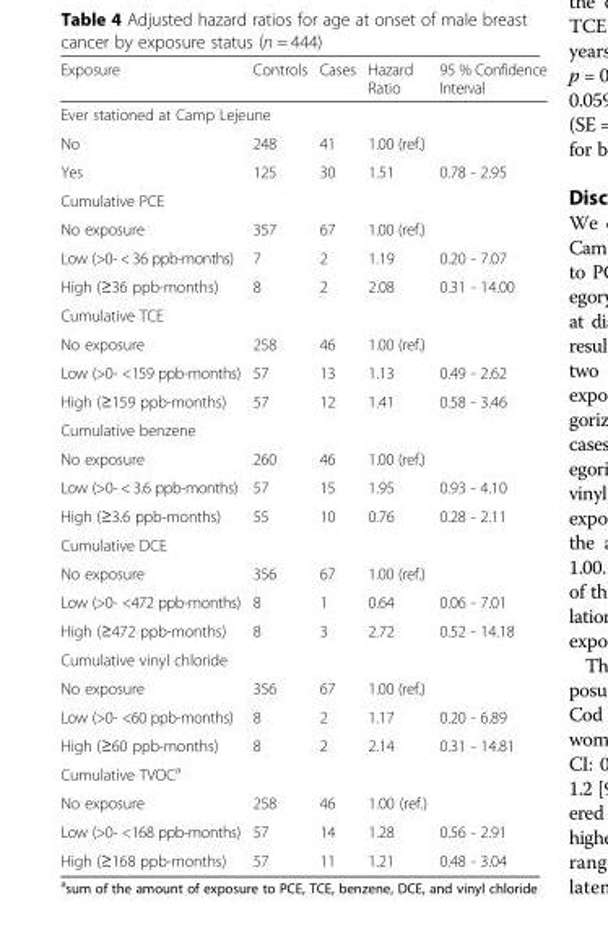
<table><thead><tr><td>Exposure</td><td>Controls</td><td>Cases</td><td>Hazard Ratio</td><td>95 % Confidence Interval</td></tr></thead><tbody><tr><td colspan="5">Ever stationed at Camp Lejeune</td></tr><tr><td>No</td><td>248</td><td>41</td><td>1.00 (ref.)</td><td></td></tr><tr><td>Yes</td><td>125</td><td>30</td><td>1.51</td><td>0.78 - 2.95</td></tr><tr><td colspan="5">Cumulative PCE</td></tr><tr><td>No exposure</td><td>357</td><td>67</td><td>1.00 (ref.)</td><td></td></tr><tr><td>Low (&gt;0- &lt; 36 ppb-months)</td><td>7</td><td>2</td><td>1.19</td><td>0.20 - 7.07</td></tr><tr><td>High (≥36 ppb-months)</td><td>8</td><td>2</td><td>2.08</td><td>0.31 - 14.00</td></tr><tr><td colspan="5">Cumulative TCE</td></tr><tr><td>No exposure</td><td>258</td><td>46</td><td>1.00 (ref.)</td><td></td></tr><tr><td>Low (&gt;0- &lt;159 ppb-months)</td><td>57</td><td>13</td><td>1.13</td><td>0.49 - 2.62</td></tr><tr><td>High (≥159 ppb-months)</td><td>57</td><td>12</td><td>1.41</td><td>0.58 - 3.46</td></tr><tr><td colspan="5">Cumulative benzene</td></tr><tr><td>No exposure</td><td>260</td><td>46</td><td>1.00 (ref.)</td><td></td></tr><tr><td>Low (&gt;0- &lt; 3.6 ppb-months)</td><td>57</td><td>15</td><td>1.95</td><td>0.93 - 4.10</td></tr><tr><td>High (≥3.6 ppb-months)</td><td>55</td><td>10</td><td>0.76</td><td>0.28 - 2.11</td></tr><tr><td colspan="5">Cumulative DCE</td></tr><tr><td>No exposure</td><td>356</td><td>67</td><td>1.00 (ref.)</td><td></td></tr><tr><td>Low (&gt;0- &lt;472 ppb-months)</td><td>8</td><td>1</td><td>0.64</td><td>0.06 - 7.01</td></tr><tr><td>High (≥472 ppb-months)</td><td>8</td><td>3</td><td>2.72</td><td>0.52 - 14.18</td></tr><tr><td colspan="5">Cumulative vinyl chloride</td></tr><tr><td>No exposure</td><td>356</td><td>67</td><td>1.00 (ref.)</td><td></td></tr><tr><td>Low (&gt;0- &lt;60 ppb-months)</td><td>8</td><td>2</td><td>1.17</td><td>0.20 - 6.89</td></tr><tr><td>High (≥60 ppb-months)</td><td>8</td><td>2</td><td>2.14</td><td>0.31 - 14.81</td></tr><tr><td colspan="5">Cumulative TVOC<sup>a</sup></td></tr><tr><td>No exposure</td><td>258</td><td>46</td><td>1.00 (ref.)</td><td></td></tr><tr><td>Low (&gt;0- &lt;168 ppb-months)</td><td>57</td><td>14</td><td>1.28</td><td>0.56 - 2.91</td></tr><tr><td>High (≥168 ppb-months)</td><td>57</td><td>11</td><td>1.21</td><td>0.48 - 3.04</td></tr></tbody></table>